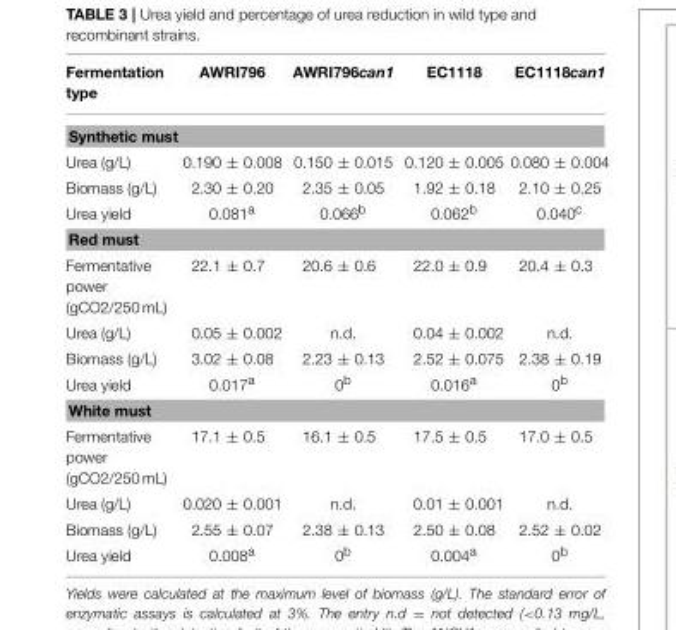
<table><thead><tr><td>Fermentation type</td><td>AWRI796</td><td>AWRI796can1</td><td>EC1118</td><td>EC1118can1</td></tr></thead><tbody><tr><td colspan="5">Synthetic must</td></tr><tr><td>Urea (g/L)</td><td>0.190 ± 0.008</td><td>0.150 ± 0.015</td><td>0.120 ± 0.005</td><td>0.080 ± 0.004</td></tr><tr><td>Biomass (g/L)</td><td>2.30 ± 0.20</td><td>2.35 ± 0.05</td><td>1.92 ± 0.18</td><td>2.10 ± 0.25</td></tr><tr><td>Urea yield</td><td>0.081<sup>a</sup></td><td>0.066<sup>b</sup></td><td>0.062<sup>b</sup></td><td>0.040<sup>c</sup></td></tr><tr><td colspan="5">Red must</td></tr><tr><td>Fermentative power (gCO2/250 mL)</td><td>22.1 ± 0.7</td><td>20.6 ± 0.6</td><td>22.0 ± 0.9</td><td>20.4 ± 0.3</td></tr><tr><td>Urea (g/L)</td><td>0.05 ± 0.002</td><td>n.d.</td><td>0.04 ± 0.002</td><td>n.d.</td></tr><tr><td>Biomass (g/L)</td><td>3.02 ± 0.08</td><td>2.23 ± 0.13</td><td>2.52 ± 0.075</td><td>2.38 ± 0.19</td></tr><tr><td>Urea yield</td><td>0.017<sup>a</sup></td><td>0<sup>b</sup></td><td>0.016<sup>a</sup></td><td>0<sup>b</sup></td></tr><tr><td colspan="5">White must</td></tr><tr><td>Fermentative power (gCO2/250 mL)</td><td>17.1 ± 0.5</td><td>16.1 ± 0.5</td><td>17.5 ± 0.5</td><td>17.0 ± 0.5</td></tr><tr><td>Urea (g/L)</td><td>0.020 ± 0.001</td><td>n.d.</td><td>0.01 ± 0.001</td><td>n.d.</td></tr><tr><td>Biomass (g/L)</td><td>2.55 ± 0.07</td><td>2.38 ± 0.13</td><td>2.50 ± 0.08</td><td>2.52 ± 0.02</td></tr><tr><td>Urea yield</td><td>0.008<sup>a</sup></td><td>0<sup>b</sup></td><td>0.004<sup>a</sup></td><td>0<sup>b</sup></td></tr></tbody></table>